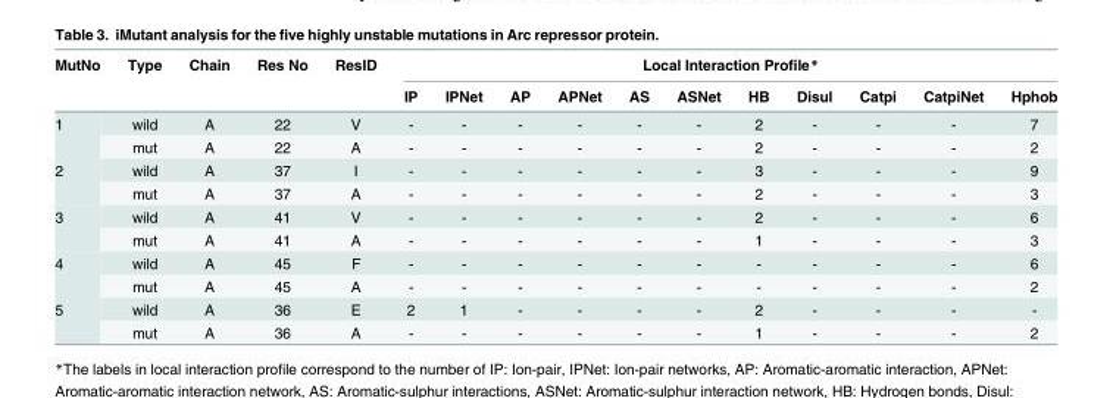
<table><thead><tr><td rowspan="2">MutNo</td><td rowspan="2">Type</td><td rowspan="2">Chain</td><td rowspan="2">Res No</td><td rowspan="2">ResID</td><td colspan="11">Local Interaction Profile*</td></tr><tr><td>IP</td><td>IPNet</td><td>AP</td><td>APNet</td><td>AS</td><td>ASNet</td><td>HB</td><td>Disul</td><td>Catpi</td><td>CatpiNet</td><td>Hphob</td></tr></thead><tbody><tr><td rowspan="2">1</td><td>wild</td><td>A</td><td>22</td><td>V</td><td>-</td><td>-</td><td>-</td><td>-</td><td>-</td><td>-</td><td>2</td><td>-</td><td>-</td><td>-</td><td>7</td></tr><tr><td>mut</td><td>A</td><td>22</td><td>A</td><td>-</td><td>-</td><td>-</td><td>-</td><td>-</td><td>-</td><td>2</td><td>-</td><td>-</td><td>-</td><td>2</td></tr><tr><td rowspan="2">2</td><td>wild</td><td>A</td><td>37</td><td>I</td><td>-</td><td>-</td><td>-</td><td>-</td><td>-</td><td>-</td><td>3</td><td>-</td><td>-</td><td>-</td><td>9</td></tr><tr><td>mut</td><td>A</td><td>37</td><td>A</td><td>-</td><td>-</td><td>-</td><td>-</td><td>-</td><td>-</td><td>2</td><td>-</td><td>-</td><td>-</td><td>3</td></tr><tr><td rowspan="2">3</td><td>wild</td><td>A</td><td>41</td><td>V</td><td>-</td><td>-</td><td>-</td><td>-</td><td>-</td><td>-</td><td>2</td><td>-</td><td>-</td><td>-</td><td>6</td></tr><tr><td>mut</td><td>A</td><td>41</td><td>A</td><td>-</td><td>-</td><td>-</td><td>-</td><td>-</td><td>-</td><td>1</td><td>-</td><td>-</td><td>-</td><td>3</td></tr><tr><td rowspan="2">4</td><td>wild</td><td>A</td><td>45</td><td>F</td><td>-</td><td>-</td><td>-</td><td>-</td><td>-</td><td>-</td><td>-</td><td>-</td><td>-</td><td>-</td><td>6</td></tr><tr><td>mut</td><td>A</td><td>45</td><td>A</td><td>-</td><td>-</td><td>-</td><td>-</td><td>-</td><td>-</td><td>-</td><td>-</td><td>-</td><td>-</td><td>2</td></tr><tr><td rowspan="2">5</td><td>wild</td><td>A</td><td>36</td><td>E</td><td>2</td><td>1</td><td>-</td><td>-</td><td>-</td><td>-</td><td>2</td><td>-</td><td>-</td><td>-</td><td>-</td></tr><tr><td>mut</td><td>A</td><td>36</td><td>A</td><td>-</td><td>-</td><td>-</td><td>-</td><td>-</td><td>-</td><td>1</td><td>-</td><td>-</td><td>-</td><td>2</td></tr></tbody></table>